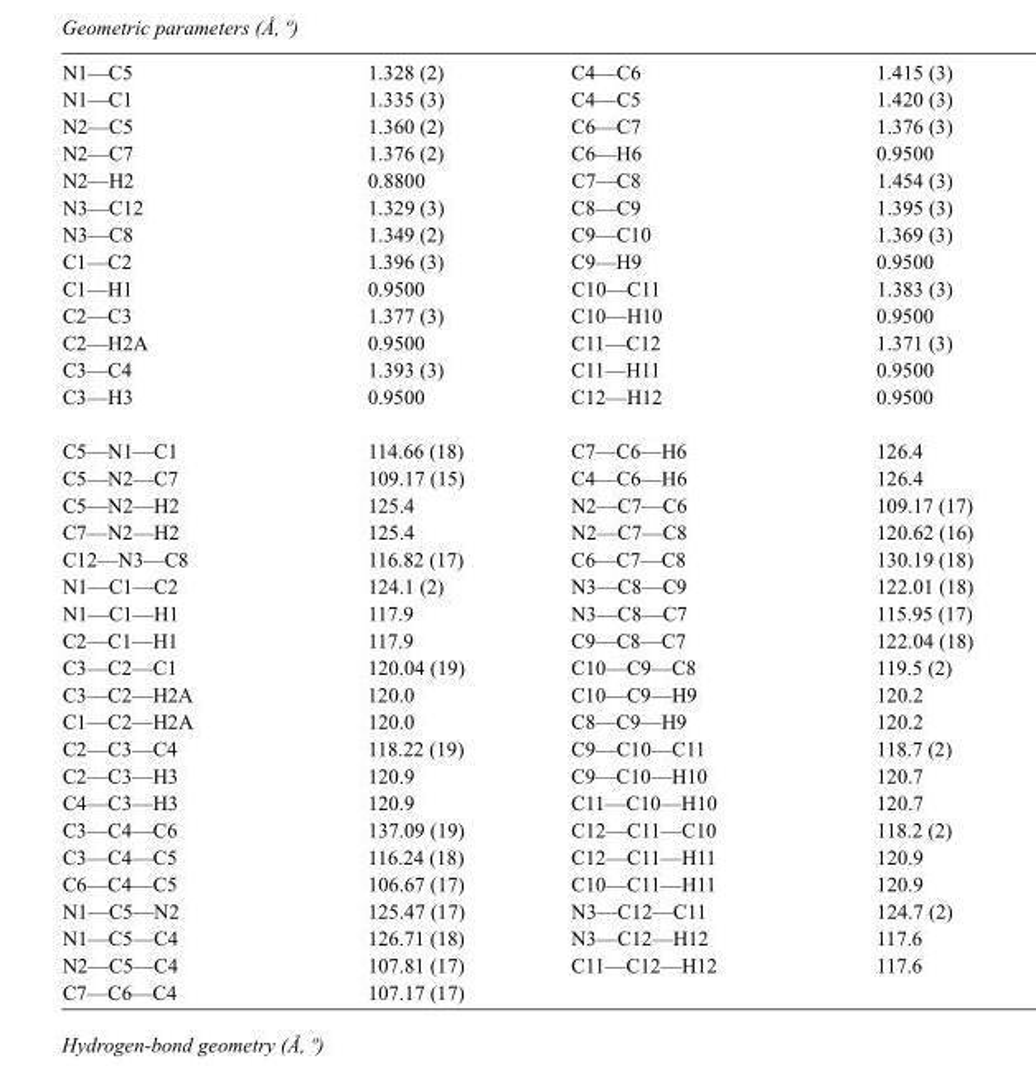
<table><tbody><tr><td>N1—C5</td><td>1.328 (2)</td><td>C4—C6</td><td>1.415 (3)</td></tr><tr><td>N1—C1</td><td>1.335 (3)</td><td>C4—C5</td><td>1.420 (3)</td></tr><tr><td>N2—C5</td><td>1.360 (2)</td><td>C6—C7</td><td>1.376 (3)</td></tr><tr><td>N2—C7</td><td>1.376 (2)</td><td>C6—H6</td><td>0.9500</td></tr><tr><td>N2—H2</td><td>0.8800</td><td>C7—C8</td><td>1.454 (3)</td></tr><tr><td>N3—C12</td><td>1.329 (3)</td><td>C8—C9</td><td>1.395 (3)</td></tr><tr><td>N3—C8</td><td>1.349 (2)</td><td>C9—C10</td><td>1.369 (3)</td></tr><tr><td>C1—C2</td><td>1.396 (3)</td><td>C9—H9</td><td>0.9500</td></tr><tr><td>C1—H1</td><td>0.9500</td><td>C10—C11</td><td>1.383 (3)</td></tr><tr><td>C2—C3</td><td>1.377 (3)</td><td>C10—H10</td><td>0.9500</td></tr><tr><td>C2—H2A</td><td>0.9500</td><td>C11—C12</td><td>1.371 (3)</td></tr><tr><td>C3—C4</td><td>1.393 (3)</td><td>C11—H11</td><td>0.9500</td></tr><tr><td>C3—H3</td><td>0.9500</td><td>C12—H12</td><td>0.9500</td></tr><tr><td>C5—N1—C1</td><td>114.66 (18)</td><td>C7—C6—H6</td><td>126.4</td></tr><tr><td>C5—N2—C7</td><td>109.17 (15)</td><td>C4—C6—H6</td><td>126.4</td></tr><tr><td>C5—N2—H2</td><td>125.4</td><td>N2—C7—C6</td><td>109.17 (17)</td></tr><tr><td>C7—N2—H2</td><td>125.4</td><td>N2—C7—C8</td><td>120.62 (16)</td></tr><tr><td>C12—N3—C8</td><td>116.82 (17)</td><td>C6—C7—C8</td><td>130.19 (18)</td></tr><tr><td>N1—C1—C2</td><td>124.1 (2)</td><td>N3—C8—C9</td><td>122.01 (18)</td></tr><tr><td>N1—C1—H1</td><td>117.9</td><td>N3—C8—C7</td><td>115.95 (17)</td></tr><tr><td>C2—C1—H1</td><td>117.9</td><td>C9—C8—C7</td><td>122.04 (18)</td></tr><tr><td>C3—C2—C1</td><td>120.04 (19)</td><td>C10—C9—C8</td><td>119.5 (2)</td></tr><tr><td>C3—C2—H2A</td><td>120.0</td><td>C10—C9—H9</td><td>120.2</td></tr><tr><td>C1—C2—H2A</td><td>120.0</td><td>C8—C9—H9</td><td>120.2</td></tr><tr><td>C2—C3—C4</td><td>118.22 (19)</td><td>C9—C10—C11</td><td>118.7 (2)</td></tr><tr><td>C2—C3—H3</td><td>120.9</td><td>C9—C10—H10</td><td>120.7</td></tr><tr><td>C4—C3—H3</td><td>120.9</td><td>C11—C10—H10</td><td>120.7</td></tr><tr><td>C3—C4—C6</td><td>137.09 (19)</td><td>C12—C11—C10</td><td>118.2 (2)</td></tr><tr><td>C3—C4—C5</td><td>116.24 (18)</td><td>C12—C11—H11</td><td>120.9</td></tr><tr><td>C6—C4—C5</td><td>106.67 (17)</td><td>C10—C11—H11</td><td>120.9</td></tr><tr><td>N1—C5—N2</td><td>125.47 (17)</td><td>N3—C12—C11</td><td>124.7 (2)</td></tr><tr><td>N1—C5—C4</td><td>126.71 (18)</td><td>N3—C12—H12</td><td>117.6</td></tr><tr><td>N2—C5—C4</td><td>107.81 (17)</td><td>C11—C12—H12</td><td>117.6</td></tr><tr><td>C7—C6—C4</td><td>107.17 (17)</td><td></td><td></td></tr></tbody></table>